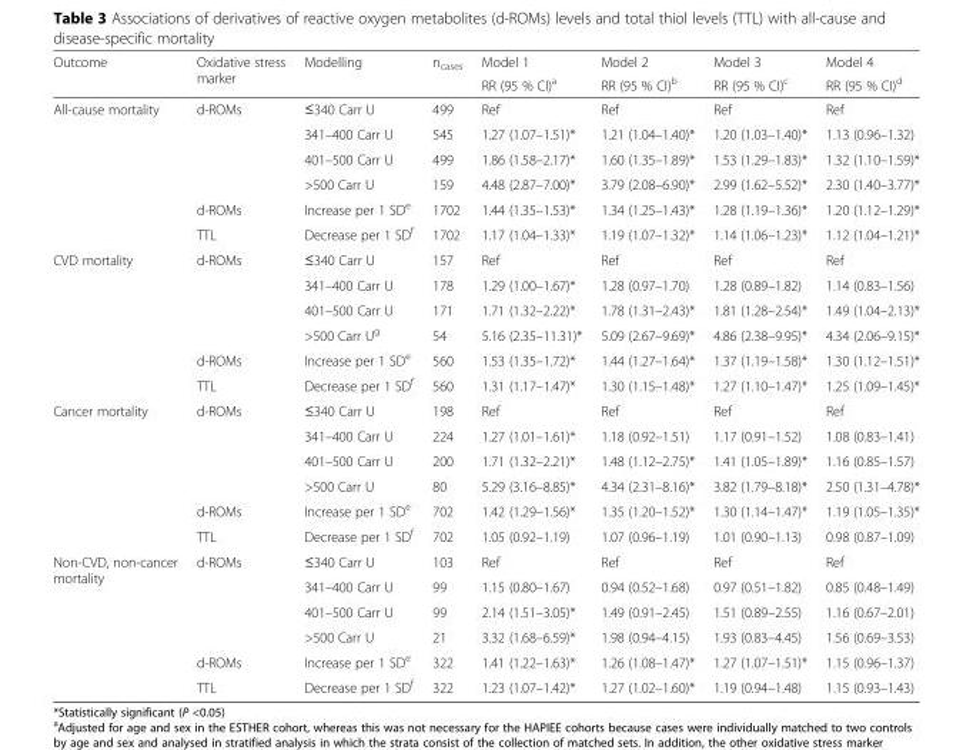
<table><thead><tr><td rowspan="2">Outcome</td><td rowspan="2">Oxidative stress marker</td><td rowspan="2">Modelling</td><td rowspan="2">n<sub>cases</sub></td><td rowspan="2">Model 1 RR (95 % CI)<sup>a</sup></td><td rowspan="2">Model 2 RR (95 % CI)<sup>b</sup></td><td rowspan="2">Model 3 RR (95 % CI)<sup>c</sup></td><td rowspan="2">Model 4 RR (95 % CI)<sup>d</sup></td></tr><tr></tr></thead><tbody><tr><td rowspan="6">All-cause mortality</td><td>d-ROMs</td><td>≤340 Carr U</td><td>499</td><td>Ref</td><td>Ref</td><td>Ref</td><td>Ref</td></tr><tr><td></td><td>341–400 Carr U</td><td>545</td><td>1.27 (1.07–1.51)*</td><td>1.21 (1.04–1.40)*</td><td>1.20 (1.03–1.40)*</td><td>1.13 (0.96–1.32)</td></tr><tr><td></td><td>401–500 Carr U</td><td>499</td><td>1.86 (1.58–2.17)*</td><td>1.60 (1.35–1.89)*</td><td>1.53 (1.29–1.83)*</td><td>1.32 (1.10–1.59)*</td></tr><tr><td></td><td>&gt;500 Carr U</td><td>159</td><td>4.48 (2.87–7.00)*</td><td>3.79 (2.08–6.90)*</td><td>2.99 (1.62–5.52)*</td><td>2.30 (1.40–3.77)*</td></tr><tr><td>d-ROMs</td><td>Increase per 1 SD<sup>e</sup></td><td>1702</td><td>1.44 (1.35–1.53)*</td><td>1.34 (1.25–1.43)*</td><td>1.28 (1.19–1.36)*</td><td>1.20 (1.12–1.29)*</td></tr><tr><td>TTL</td><td>Decrease per 1 SD<sup>f</sup></td><td>1702</td><td>1.17 (1.04–1.33)*</td><td>1.19 (1.07–1.32)*</td><td>1.14 (1.06–1.23)*</td><td>1.12 (1.04–1.21)*</td></tr><tr><td rowspan="6">CVD mortality</td><td>d-ROMs</td><td>≤340 Carr U</td><td>157</td><td>Ref</td><td>Ref</td><td>Ref</td><td>Ref</td></tr><tr><td></td><td>341–400 Carr U</td><td>178</td><td>1.29 (1.00–1.67)*</td><td>1.28 (0.97–1.70)</td><td>1.28 (0.89–1.82)</td><td>1.14 (0.83–1.56)</td></tr><tr><td></td><td>401–500 Carr U</td><td>171</td><td>1.71 (1.32–2.22)*</td><td>1.78 (1.31–2.43)*</td><td>1.81 (1.28–2.54)*</td><td>1.49 (1.04–2.13)*</td></tr><tr><td></td><td>&gt;500 Carr U<sup>g</sup></td><td>54</td><td>5.16 (2.35–11.31)*</td><td>5.09 (2.67–9.69)*</td><td>4.86 (2.38–9.95)*</td><td>4.34 (2.06–9.15)*</td></tr><tr><td>d-ROMs</td><td>Increase per 1 SD<sup>e</sup></td><td>560</td><td>1.53 (1.35–1.72)*</td><td>1.44 (1.27–1.64)*</td><td>1.37 (1.19–1.58)*</td><td>1.30 (1.12–1.51)*</td></tr><tr><td>TTL</td><td>Decrease per 1 SD<sup>f</sup></td><td>560</td><td>1.31 (1.17–1.47)*</td><td>1.30 (1.15–1.48)*</td><td>1.27 (1.10–1.47)*</td><td>1.25 (1.09–1.45)*</td></tr><tr><td rowspan="6">Cancer mortality</td><td>d-ROMs</td><td>≤340 Carr U</td><td>198</td><td>Ref</td><td>Ref</td><td>Ref</td><td>Ref</td></tr><tr><td></td><td>341–400 Carr U</td><td>224</td><td>1.27 (1.01–1.61)*</td><td>1.18 (0.92–1.51)</td><td>1.17 (0.91–1.52)</td><td>1.08 (0.83–1.41)</td></tr><tr><td></td><td>401–500 Carr U</td><td>200</td><td>1.71 (1.32–2.21)*</td><td>1.48 (1.12–2.75)*</td><td>1.41 (1.05–1.89)*</td><td>1.16 (0.85–1.57)</td></tr><tr><td></td><td>&gt;500 Carr U</td><td>80</td><td>5.29 (3.16–8.85)*</td><td>4.34 (2.31–8.16)*</td><td>3.82 (1.79–8.18)*</td><td>2.50 (1.31–4.78)*</td></tr><tr><td>d-ROMs</td><td>Increase per 1 SD<sup>e</sup></td><td>702</td><td>1.42 (1.29–1.56)*</td><td>1.35 (1.20–1.52)*</td><td>1.30 (1.14–1.47)*</td><td>1.19 (1.05–1.35)*</td></tr><tr><td>TTL</td><td>Decrease per 1 SD<sup>f</sup></td><td>702</td><td>1.05 (0.92–1.19)</td><td>1.07 (0.96–1.19)</td><td>1.01 (0.90–1.13)</td><td>0.98 (0.87–1.09)</td></tr><tr><td rowspan="6">Non-CVD, non-cancer mortality</td><td>d-ROMs</td><td>≤340 Carr U</td><td>103</td><td>Ref</td><td>Ref</td><td>Ref</td><td>Ref</td></tr><tr><td></td><td>341–400 Carr U</td><td>99</td><td>1.15 (0.80–1.67)</td><td>0.94 (0.52–1.68)</td><td>0.97 (0.51–1.82)</td><td>0.85 (0.48–1.49)</td></tr><tr><td></td><td>401–500 Carr U</td><td>99</td><td>2.14 (1.51–3.05)*</td><td>1.49 (0.91–2.45)</td><td>1.51 (0.89–2.55)</td><td>1.16 (0.67–2.01)</td></tr><tr><td></td><td>&gt;500 Carr U</td><td>21</td><td>3.32 (1.68–6.59)*</td><td>1.98 (0.94–4.15)</td><td>1.93 (0.83–4.45)</td><td>1.56 (0.69–3.53)</td></tr><tr><td>d-ROMs</td><td>Increase per 1 SD<sup>e</sup></td><td>322</td><td>1.41 (1.22–1.63)*</td><td>1.26 (1.08–1.47)*</td><td>1.27 (1.07–1.51)*</td><td>1.15 (0.96–1.37)</td></tr><tr><td>TTL</td><td>Decrease per 1 SD<sup>f</sup></td><td>322</td><td>1.23 (1.07–1.42)*</td><td>1.27 (1.02–1.60)*</td><td>1.19 (0.94–1.48)</td><td>1.15 (0.93–1.43)</td></tr></tbody></table>